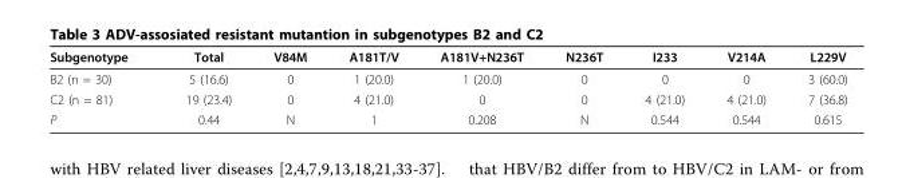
<table><thead><tr><td>Subgenotype</td><td>Total</td><td>V84M</td><td>A181T/V</td><td>A181V+N236T</td><td>N236T</td><td>I233</td><td>V214A</td><td>L229V</td></tr></thead><tbody><tr><td>B2 (n = 30)</td><td>5 (16.6)</td><td>0</td><td>1 (20.0)</td><td>1 (20.0)</td><td>0</td><td>0</td><td>0</td><td>3 (60.0)</td></tr><tr><td>C2 (n = 81)</td><td>19 (23.4)</td><td>0</td><td>4 (21.0)</td><td>0</td><td>0</td><td>4 (21.0)</td><td>4 (21.0)</td><td>7 (36.8)</td></tr><tr><td>P</td><td>0.44</td><td>N</td><td>1</td><td>0.208</td><td>N</td><td>0.544</td><td>0.544</td><td>0.615</td></tr></tbody></table>